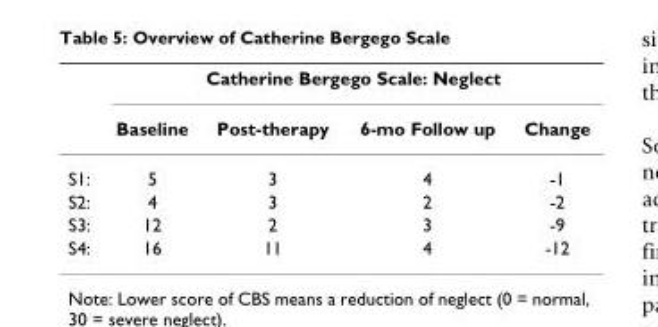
<table><thead><tr><td rowspan="2"></td><td colspan="4">Catherine Bergego Scale: Neglect</td></tr><tr><td>Baseline</td><td>Post-therapy</td><td>6-mo Follow up</td><td>Change</td></tr></thead><tbody><tr><td>S1:</td><td>5</td><td>3</td><td>4</td><td>-1</td></tr><tr><td>S2:</td><td>4</td><td>3</td><td>2</td><td>-2</td></tr><tr><td>S3:</td><td>12</td><td>2</td><td>3</td><td>-9</td></tr><tr><td>S4:</td><td>16</td><td>11</td><td>4</td><td>-12</td></tr></tbody></table>